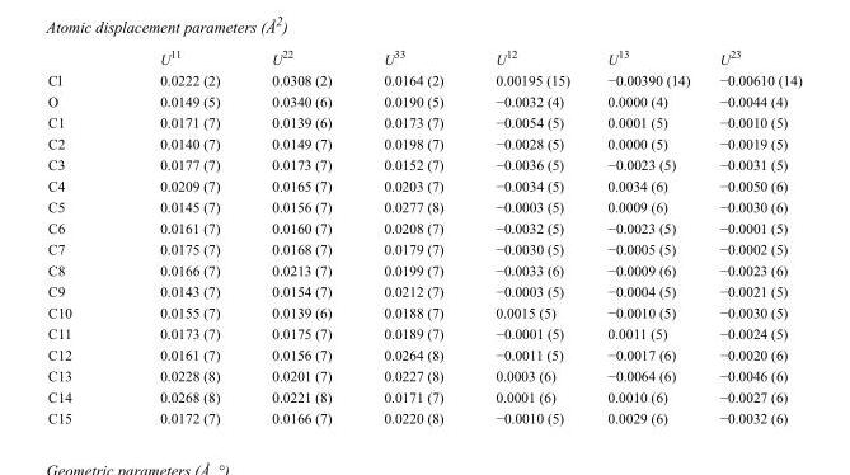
<table><thead><tr><td></td><td>U<sup>11</sup></td><td>U<sup>22</sup></td><td>U<sup>33</sup></td><td>U<sup>12</sup></td><td>U<sup>13</sup></td><td>U<sup>23</sup></td></tr></thead><tbody><tr><td>Cl</td><td>0.0222 (2)</td><td>0.0308 (2)</td><td>0.0164 (2)</td><td>0.00195 (15)</td><td>−0.00390 (14)</td><td>−0.00610 (14)</td></tr><tr><td>O</td><td>0.0149 (5)</td><td>0.0340 (6)</td><td>0.0190 (5)</td><td>−0.0032 (4)</td><td>0.0000 (4)</td><td>−0.0044 (4)</td></tr><tr><td>C1</td><td>0.0171 (7)</td><td>0.0139 (6)</td><td>0.0173 (7)</td><td>−0.0054 (5)</td><td>0.0001 (5)</td><td>−0.0010 (5)</td></tr><tr><td>C2</td><td>0.0140 (7)</td><td>0.0149 (7)</td><td>0.0198 (7)</td><td>−0.0028 (5)</td><td>0.0000 (5)</td><td>−0.0019 (5)</td></tr><tr><td>C3</td><td>0.0177 (7)</td><td>0.0173 (7)</td><td>0.0152 (7)</td><td>−0.0036 (5)</td><td>−0.0023 (5)</td><td>−0.0031 (5)</td></tr><tr><td>C4</td><td>0.0209 (7)</td><td>0.0165 (7)</td><td>0.0203 (7)</td><td>−0.0034 (5)</td><td>0.0034 (6)</td><td>−0.0050 (6)</td></tr><tr><td>C5</td><td>0.0145 (7)</td><td>0.0156 (7)</td><td>0.0277 (8)</td><td>−0.0003 (5)</td><td>0.0009 (6)</td><td>−0.0030 (6)</td></tr><tr><td>C6</td><td>0.0161 (7)</td><td>0.0160 (7)</td><td>0.0208 (7)</td><td>−0.0032 (5)</td><td>−0.0023 (5)</td><td>−0.0001 (5)</td></tr><tr><td>C7</td><td>0.0175 (7)</td><td>0.0168 (7)</td><td>0.0179 (7)</td><td>−0.0030 (5)</td><td>−0.0005 (5)</td><td>−0.0002 (5)</td></tr><tr><td>C8</td><td>0.0166 (7)</td><td>0.0213 (7)</td><td>0.0199 (7)</td><td>−0.0033 (6)</td><td>−0.0009 (6)</td><td>−0.0023 (6)</td></tr><tr><td>C9</td><td>0.0143 (7)</td><td>0.0154 (7)</td><td>0.0212 (7)</td><td>−0.0003 (5)</td><td>−0.0004 (5)</td><td>−0.0021 (5)</td></tr><tr><td>C10</td><td>0.0155 (7)</td><td>0.0139 (6)</td><td>0.0188 (7)</td><td>0.0015 (5)</td><td>−0.0010 (5)</td><td>−0.0030 (5)</td></tr><tr><td>C11</td><td>0.0173 (7)</td><td>0.0175 (7)</td><td>0.0189 (7)</td><td>−0.0001 (5)</td><td>0.0011 (5)</td><td>−0.0024 (5)</td></tr><tr><td>C12</td><td>0.0161 (7)</td><td>0.0156 (7)</td><td>0.0264 (8)</td><td>−0.0011 (5)</td><td>−0.0017 (6)</td><td>−0.0020 (6)</td></tr><tr><td>C13</td><td>0.0228 (8)</td><td>0.0201 (7)</td><td>0.0227 (8)</td><td>0.0003 (6)</td><td>−0.0064 (6)</td><td>−0.0046 (6)</td></tr><tr><td>C14</td><td>0.0268 (8)</td><td>0.0221 (8)</td><td>0.0171 (7)</td><td>0.0001 (6)</td><td>0.0010 (6)</td><td>−0.0027 (6)</td></tr><tr><td>C15</td><td>0.0172 (7)</td><td>0.0166 (7)</td><td>0.0220 (8)</td><td>−0.0010 (5)</td><td>0.0029 (6)</td><td>−0.0032 (6)</td></tr></tbody></table>